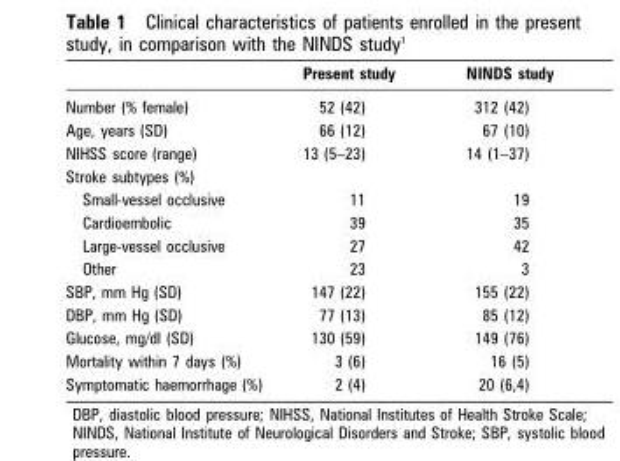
<table><thead><tr><td></td><td>Present study</td><td>NINDS study</td></tr></thead><tbody><tr><td>Number (% female)</td><td>52 (42)</td><td>312 (42)</td></tr><tr><td>Age, years (SD)</td><td>66 (12)</td><td>67 (10)</td></tr><tr><td>NIHSS score (range)</td><td>13 (5–23)</td><td>14 (1–37)</td></tr><tr><td colspan="3">Stroke subtypes (%)</td></tr><tr><td>Small-vessel occlusive</td><td>11</td><td>19</td></tr><tr><td>Cardioembolic</td><td>39</td><td>35</td></tr><tr><td>Large-vessel occlusive</td><td>27</td><td>42</td></tr><tr><td>Other</td><td>23</td><td>3</td></tr><tr><td>SBP, mm Hg (SD)</td><td>147 (22)</td><td>155 (22)</td></tr><tr><td>DBP, mm Hg (SD)</td><td>77 (13)</td><td>85 (12)</td></tr><tr><td>Glucose, mg/dl (SD)</td><td>130 (59)</td><td>149 (76)</td></tr><tr><td>Mortality within 7 days (%)</td><td>3 (6)</td><td>16 (5)</td></tr><tr><td>Symptomatic haemorrhage (%)</td><td>2 (4)</td><td>20 (6,4)</td></tr></tbody></table>